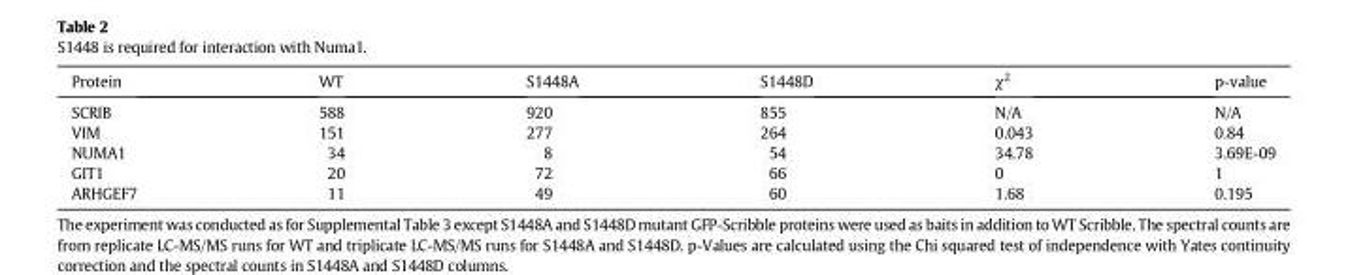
<table><thead><tr><td>Protein</td><td>WT</td><td>S1448A</td><td>S1448D</td><td>χ<sup>2</sup></td><td>p-value</td></tr></thead><tbody><tr><td>SCRIB</td><td>588</td><td>920</td><td>855</td><td>N/A</td><td>N/A</td></tr><tr><td>VIM</td><td>151</td><td>277</td><td>264</td><td>0.043</td><td>0.84</td></tr><tr><td>NUMA1</td><td>34</td><td>8</td><td>54</td><td>34.78</td><td>3.69E-09</td></tr><tr><td>GIT1</td><td>20</td><td>72</td><td>66</td><td>0</td><td>1</td></tr><tr><td>ARHGEF7</td><td>11</td><td>49</td><td>60</td><td>1.68</td><td>0.195</td></tr></tbody></table>